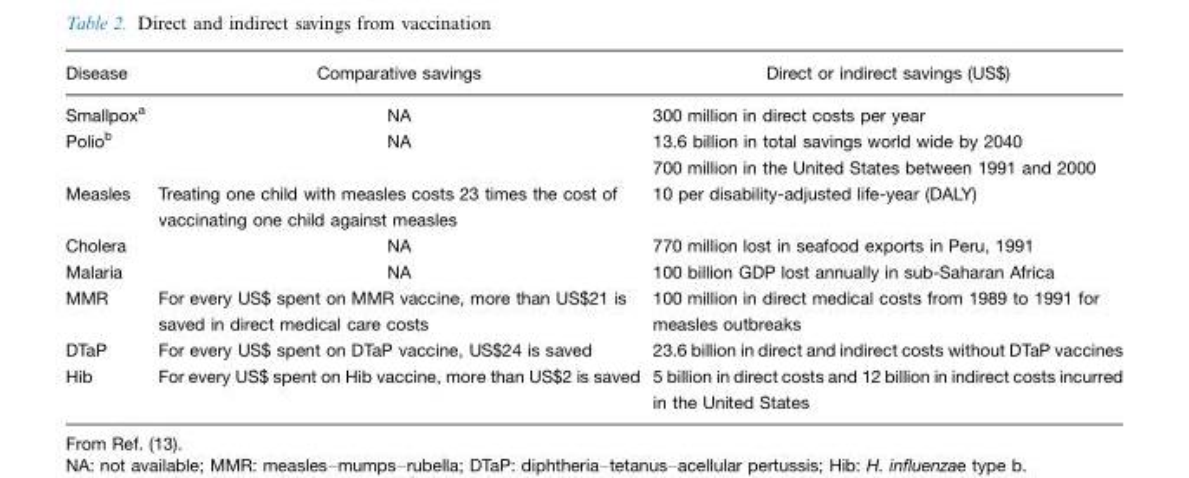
<table><thead><tr><td>Disease</td><td>Comparative savings</td><td>Direct or indirect savings (US$)</td></tr></thead><tbody><tr><td>Smallpoxa</td><td>NA</td><td>300 million in direct costs per year</td></tr><tr><td>Poliob</td><td>NA</td><td>13.6 billion in total savings world wide by 2040 700 million in the United States between 1991 and 2000</td></tr><tr><td>Measles</td><td>Treating one child with measles costs 23 times the cost of vaccinating one child against measles</td><td>10 per disability-adjusted life-year (DALY)</td></tr><tr><td>Cholera</td><td>NA</td><td>770 million lost in seafood exports in Peru, 1991</td></tr><tr><td>Malaria</td><td>NA</td><td>100 billion GDP lost annually in sub-Saharan Africa</td></tr><tr><td>MMR</td><td>For every US$ spent on MMR vaccine, more than US$21 is saved in direct medical care costs</td><td>100 million in direct medical costs from 1989 to 1991 for measles outbreaks</td></tr><tr><td>DTaP</td><td>For every US$ spent on DTaP vaccine, US$24 is saved</td><td>23.6 billion in direct and indirect costs without DTaP vaccines</td></tr><tr><td>Hib</td><td>For every US$ spent on Hib vaccine, more than US$2 is saved</td><td>5 billion in direct costs and 12 billion in indirect costs incurred in the United States</td></tr></tbody></table>